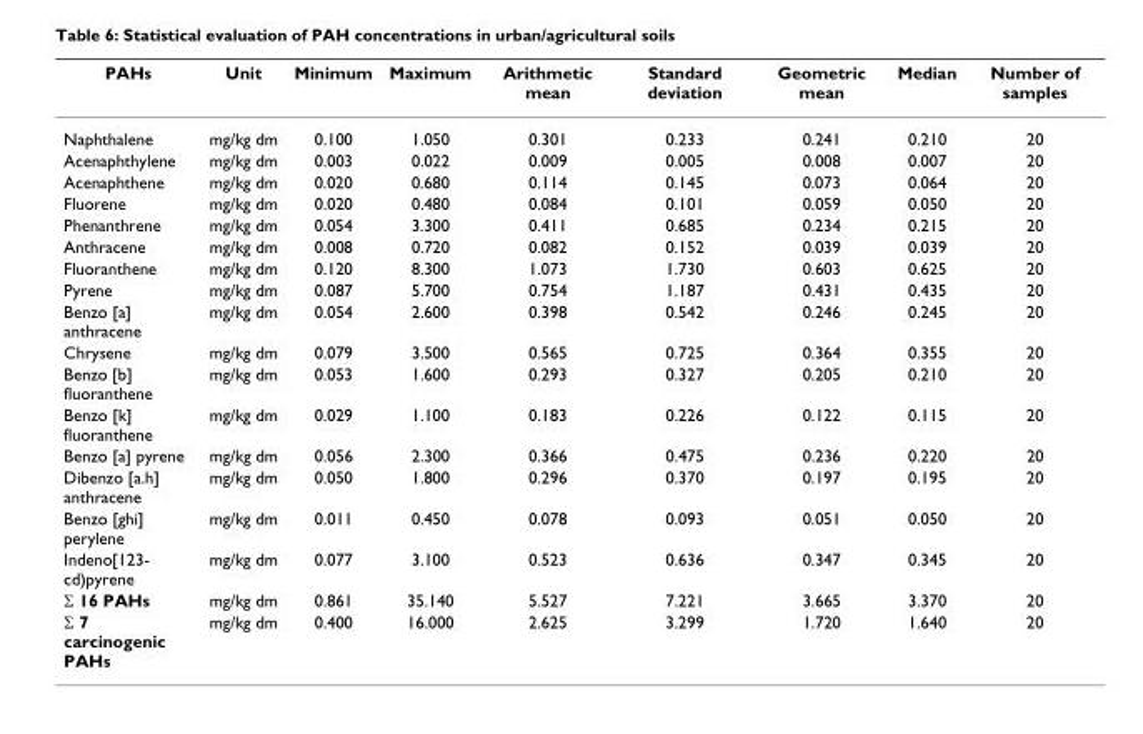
<table><thead><tr><td>PAHs</td><td>Unit</td><td>Minimum</td><td>Maximum</td><td>Arithmetic mean</td><td>Standard deviation</td><td>Geometric mean</td><td>Median</td><td>Number of samples</td></tr></thead><tbody><tr><td>Naphthalene</td><td>mg/kg dm</td><td>0.100</td><td>1.050</td><td>0.301</td><td>0.233</td><td>0.241</td><td>0.210</td><td>20</td></tr><tr><td>Acenaphthylene</td><td>mg/kg dm</td><td>0.003</td><td>0.022</td><td>0.009</td><td>0.005</td><td>0.008</td><td>0.007</td><td>20</td></tr><tr><td>Acenaphthene</td><td>mg/kg dm</td><td>0.020</td><td>0.680</td><td>0.114</td><td>0.145</td><td>0.073</td><td>0.064</td><td>20</td></tr><tr><td>Fluorene</td><td>mg/kg dm</td><td>0.020</td><td>0.480</td><td>0.084</td><td>0.101</td><td>0.059</td><td>0.050</td><td>20</td></tr><tr><td>Phenanthrene</td><td>mg/kg dm</td><td>0.054</td><td>3.300</td><td>0.411</td><td>0.685</td><td>0.234</td><td>0.215</td><td>20</td></tr><tr><td>Anthracene</td><td>mg/kg dm</td><td>0.008</td><td>0.720</td><td>0.082</td><td>0.152</td><td>0.039</td><td>0.039</td><td>20</td></tr><tr><td>Fluoranthene</td><td>mg/kg dm</td><td>0.120</td><td>8.300</td><td>1.073</td><td>1.730</td><td>0.603</td><td>0.625</td><td>20</td></tr><tr><td>Pyrene</td><td>mg/kg dm</td><td>0.087</td><td>5.700</td><td>0.754</td><td>1.187</td><td>0.431</td><td>0.435</td><td>20</td></tr><tr><td>Benzo [a] anthracene</td><td>mg/kg dm</td><td>0.054</td><td>2.600</td><td>0.398</td><td>0.542</td><td>0.246</td><td>0.245</td><td>20</td></tr><tr><td>Chrysene</td><td>mg/kg dm</td><td>0.079</td><td>3.500</td><td>0.565</td><td>0.725</td><td>0.364</td><td>0.355</td><td>20</td></tr><tr><td>Benzo [b] fluoranthene</td><td>mg/kg dm</td><td>0.053</td><td>1.600</td><td>0.293</td><td>0.327</td><td>0.205</td><td>0.210</td><td>20</td></tr><tr><td>Benzo [k] fluoranthene</td><td>mg/kg dm</td><td>0.029</td><td>1.100</td><td>0.183</td><td>0.226</td><td>0.122</td><td>0.115</td><td>20</td></tr><tr><td>Benzo [a] pyrene</td><td>mg/kg dm</td><td>0.056</td><td>2.300</td><td>0.366</td><td>0.475</td><td>0.236</td><td>0.220</td><td>20</td></tr><tr><td>Dibenzo [a.h] anthracene</td><td>mg/kg dm</td><td>0.050</td><td>1.800</td><td>0.296</td><td>0.370</td><td>0.197</td><td>0.195</td><td>20</td></tr><tr><td>Benzo [ghi] perylene</td><td>mg/kg dm</td><td>0.011</td><td>0.450</td><td>0.078</td><td>0.093</td><td>0.051</td><td>0.050</td><td>20</td></tr><tr><td>Indeno[123- cd)pyrene</td><td>mg/kg dm</td><td>0.077</td><td>3.100</td><td>0.523</td><td>0.636</td><td>0.347</td><td>0.345</td><td>20</td></tr><tr><td>Σ 16 PAHs</td><td>mg/kg dm</td><td>0.861</td><td>35.140</td><td>5.527</td><td>7.221</td><td>3.665</td><td>3.370</td><td>20</td></tr><tr><td>Σ 7 carcinogenic PAHs</td><td>mg/kg dm</td><td>0.400</td><td>16.000</td><td>2.625</td><td>3.299</td><td>1.720</td><td>1.640</td><td>20</td></tr></tbody></table>